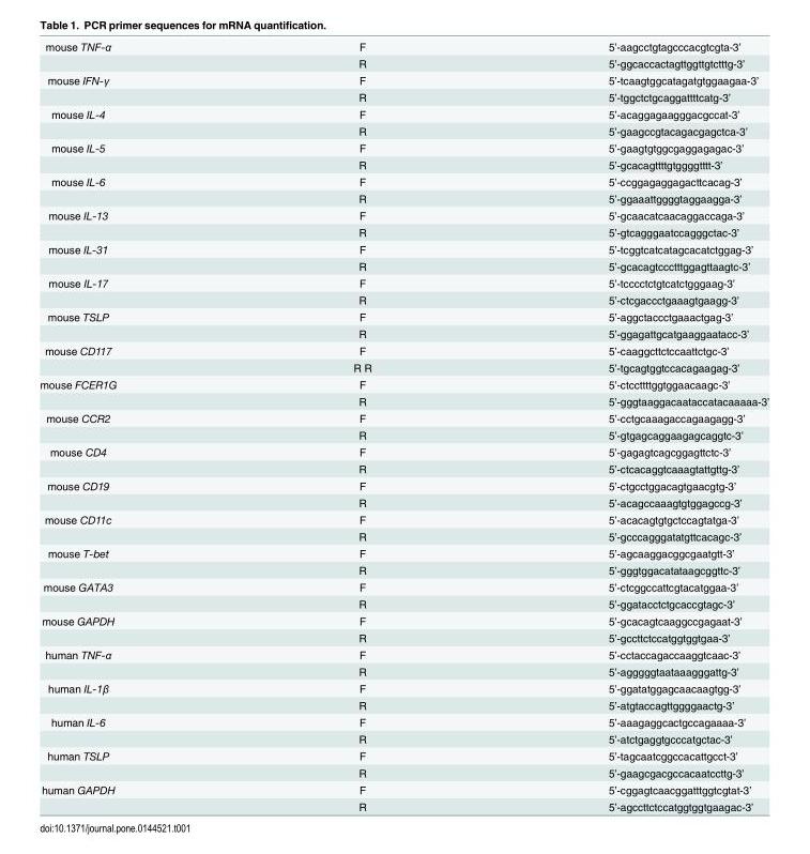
<table><tbody><tr><td rowspan="2">mouse TNF-α</td><td>F</td><td>5’-aagcctgtagcccacgtcgta-3’</td></tr><tr><td>R</td><td>5’-ggcaccactagttggttgtctttg-3’</td></tr><tr><td rowspan="2">mouse IFN-γ</td><td>F</td><td>5’-tcaagtggcatagatgtggaagaa-3’</td></tr><tr><td>R</td><td>5’-tggctctgcaggattttcatg-3’</td></tr><tr><td rowspan="2">mouse IL-4</td><td>F</td><td>5’-acaggagaagggacgccat-3’</td></tr><tr><td>R</td><td>5’-gaagccgtacagacgagctca-3’</td></tr><tr><td rowspan="2">mouse IL-5</td><td>F</td><td>5’-gaagtgtggcgaggagagac-3’</td></tr><tr><td>R</td><td>5’-gcacagttttgtggggtttt-3’</td></tr><tr><td rowspan="2">mouse IL-6</td><td>F</td><td>5’-ccggagaggagacttcacag-3’</td></tr><tr><td>R</td><td>5’-ggaaattggggtaggaagga-3’</td></tr><tr><td rowspan="2">mouse IL-13</td><td>F</td><td>5’-gcaacatcaacaggaccaga-3’</td></tr><tr><td>R</td><td>5’-gtcagggaatccagggctac-3’</td></tr><tr><td rowspan="2">mouse IL-31</td><td>F</td><td>5’-tcggtcatcatagcacatctggag-3’</td></tr><tr><td>R</td><td>5’-gcacagtccctttggagttaagtc-3’</td></tr><tr><td rowspan="2">mouse IL-17</td><td>F</td><td>5’-tcccctctgtcatctgggaag-3’</td></tr><tr><td>R</td><td>5’-ctcgaccctgaaagtgaagg-3’</td></tr><tr><td rowspan="2">mouse TSLP</td><td>F</td><td>5’-aggctaccctgaaactgag-3’</td></tr><tr><td>R</td><td>5’-ggagattgcatgaaggaatacc-3’</td></tr><tr><td rowspan="2">mouse CD117</td><td>F</td><td>5’-caaggcttctccaattctgc-3’</td></tr><tr><td>R R</td><td>5’-tgcagtggtccacagaagag-3’</td></tr><tr><td rowspan="2">mouse FCER1G</td><td>F</td><td>5’-ctccttttggtggaacaagc-3’</td></tr><tr><td>R</td><td>5’-gggtaaggacaataccatacaaaaa-3’</td></tr><tr><td rowspan="2">mouse CCR2</td><td>F</td><td>5’-cctgcaaagaccagaagagg-3’</td></tr><tr><td>R</td><td>5’-gtgagcaggaagagcaggtc-3’</td></tr><tr><td rowspan="2">mouse CD4</td><td>F</td><td>5’-gagagtcagcggagttctc-3’</td></tr><tr><td>R</td><td>5’-ctcacaggtcaaagtattgttg-3’</td></tr><tr><td rowspan="2">mouse CD19</td><td>F</td><td>5’-ctgcctggacagtgaacgtg-3’</td></tr><tr><td>R</td><td>5’-acagccaaagtgtggagccg-3’</td></tr><tr><td rowspan="2">mouse CD11c</td><td>F</td><td>5’-acacagtgtgctccagtatga-3’</td></tr><tr><td>R</td><td>5’-gcccagggatatgttcacagc-3’</td></tr><tr><td rowspan="2">mouse T-bet</td><td>F</td><td>5’-agcaaggacggcgaatgtt-3’</td></tr><tr><td>R</td><td>5’-gggtggacatataagcggttc-3’</td></tr><tr><td rowspan="2">mouse GATA3</td><td>F</td><td>5’-ctcggccattcgtacatggaa-3’</td></tr><tr><td>R</td><td>5’-ggatacctctgcaccgtagc-3’</td></tr><tr><td rowspan="2">mouse GAPDH</td><td>F</td><td>5’-gcacagtcaaggccgagaat-3’</td></tr><tr><td>R</td><td>5’-gccttctccatggtggtgaa-3’</td></tr><tr><td rowspan="2">human TNF-α</td><td>F</td><td>5’-cctaccagaccaaggtcaac-3’</td></tr><tr><td>R</td><td>5’-agggggtaataaagggattg-3’</td></tr><tr><td rowspan="2">human IL-1β</td><td>F</td><td>5’-ggatatggagcaacaagtgg-3’</td></tr><tr><td>R</td><td>5’-atgtaccagttggggaactg-3’</td></tr><tr><td rowspan="2">human IL-6</td><td>F</td><td>5’-aaagaggcactgccagaaaa-3’</td></tr><tr><td>R</td><td>5’-atctgaggtgcccatgctac-3’</td></tr><tr><td rowspan="2">human TSLP</td><td>F</td><td>5’-tagcaatcggccacattgcct-3’</td></tr><tr><td>R</td><td>5’-gaagcgacgccacaatccttg-3’</td></tr><tr><td rowspan="2">human GAPDH</td><td>F</td><td>5’-cggagtcaacggatttggtcgtat-3’</td></tr><tr><td>R</td><td>5’-agccttctccatggtggtgaagac-3’</td></tr></tbody></table>